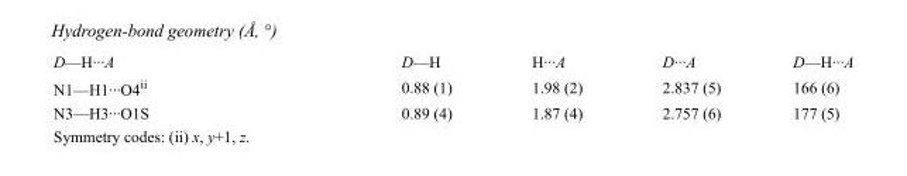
<table><tbody><tr><td>D—H···A</td><td>D—H</td><td>H···A</td><td>D···A</td><td>D—H···A</td></tr><tr><td>N1—H1···O4<sup>ii</sup></td><td>0.88 (1)</td><td>1.98 (2)</td><td>2.837 (5)</td><td>166 (6)</td></tr><tr><td>N3—H3···O1S</td><td>0.89 (4)</td><td>1.87 (4)</td><td>2.757 (6)</td><td>177 (5)</td></tr></tbody></table>